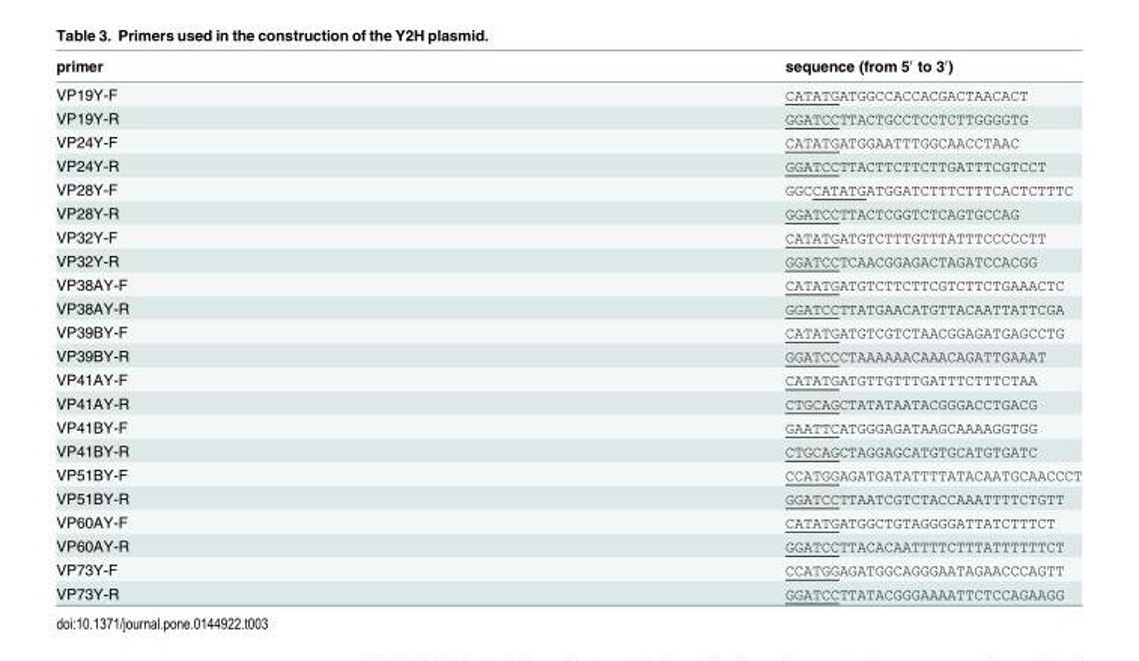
<table><thead><tr><td>primer</td><td>sequence (from 5′ to 3′)</td></tr></thead><tbody><tr><td>VP19Y-F</td><td>CATATGATGGCCACCACGACTAACACT</td></tr><tr><td>VP19Y-R</td><td>GGATCCTTACTGCCTCCTCTTGGGGTG</td></tr><tr><td>VP24Y-F</td><td>CATATGATGGAATTTGGCAACCTAAC</td></tr><tr><td>VP24Y-R</td><td>GGATCCTTACTTCTTCTTGATTTCGTCCT</td></tr><tr><td>VP28Y-F</td><td>GGCCATATGATGGATCTTTCTTTCACTCTTTC</td></tr><tr><td>VP28Y-R</td><td>GGATCCTTACTCGGTCTCAGTGCCAG</td></tr><tr><td>VP32Y-F</td><td>CATATGATGTCTTTGTTTATTTCCCCCTT</td></tr><tr><td>VP32Y-R</td><td>GGATCCTCAACGGAGACTAGATCCACGG</td></tr><tr><td>VP38AY-F</td><td>CATATGATGTCTTCTTCGTCTTCTGAAACTC</td></tr><tr><td>VP38AY-R</td><td>GGATCCTTATGAACATGTTACAATTATTCGA</td></tr><tr><td>VP39BY-F</td><td>CATATGATGTCGTCTAACGGAGATGAGCCTG</td></tr><tr><td>VP39BY-R</td><td>GGATCCCTAAAAAACAAACAGATTGAAAT</td></tr><tr><td>VP41AY-F</td><td>CATATGATGTTGTTTGATTTCTTTCTAA</td></tr><tr><td>VP41AY-R</td><td>CTGCAGCTATATAATACGGGACCTGACG</td></tr><tr><td>VP41BY-F</td><td>GAATTCATGGGAGATAAGCAAAAGGTGG</td></tr><tr><td>VP41BY-R</td><td>CTGCAGCTAGGAGCATGTGCATGTGATC</td></tr><tr><td>VP51BY-F</td><td>CCATGGAGATGATATTTTATACAATGCAACCCT</td></tr><tr><td>VP51BY-R</td><td>GGATCCTTAATCGTCTACCAAATTTTCTGTT</td></tr><tr><td>VP60AY-F</td><td>CATATGATGGCTGTAGGGGATTATCTTTCT</td></tr><tr><td>VP60AY-R</td><td>GGATCCTTACACAATTTTCTTTATTTTTTCT</td></tr><tr><td>VP73Y-F</td><td>CCATGGAGATGGCAGGGAATAGAACCCAGTT</td></tr><tr><td>VP73Y-R</td><td>GGATCCTTATACGGGAAAATTCTCCAGAAGG</td></tr></tbody></table>